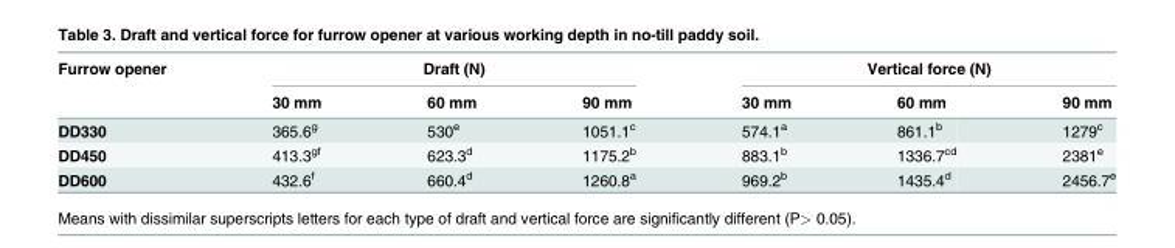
<table><thead><tr><td rowspan="2">Furrow opener</td><td colspan="3">Draft (N)</td><td colspan="3">Vertical force (N)</td></tr><tr><td>30 mm</td><td>60 mm</td><td>90 mm</td><td>30 mm</td><td>60 mm</td><td>90 mm</td></tr></thead><tbody><tr><td>DD330</td><td>365.6<sup>g</sup></td><td>530<sup>e</sup></td><td>1051.1<sup>c</sup></td><td>574.1<sup>a</sup></td><td>861.1<sup>b</sup></td><td>1279<sup>c</sup></td></tr><tr><td>DD450</td><td>413.3<sup>gf</sup></td><td>623.3<sup>d</sup></td><td>1175.2<sup>b</sup></td><td>883.1<sup>b</sup></td><td>1336.7<sup>cd</sup></td><td>2381<sup>e</sup></td></tr><tr><td>DD600</td><td>432.6<sup>f</sup></td><td>660.4<sup>d</sup></td><td>1260.8<sup>a</sup></td><td>969.2<sup>b</sup></td><td>1435.4<sup>d</sup></td><td>2456.7<sup>e</sup></td></tr></tbody></table>